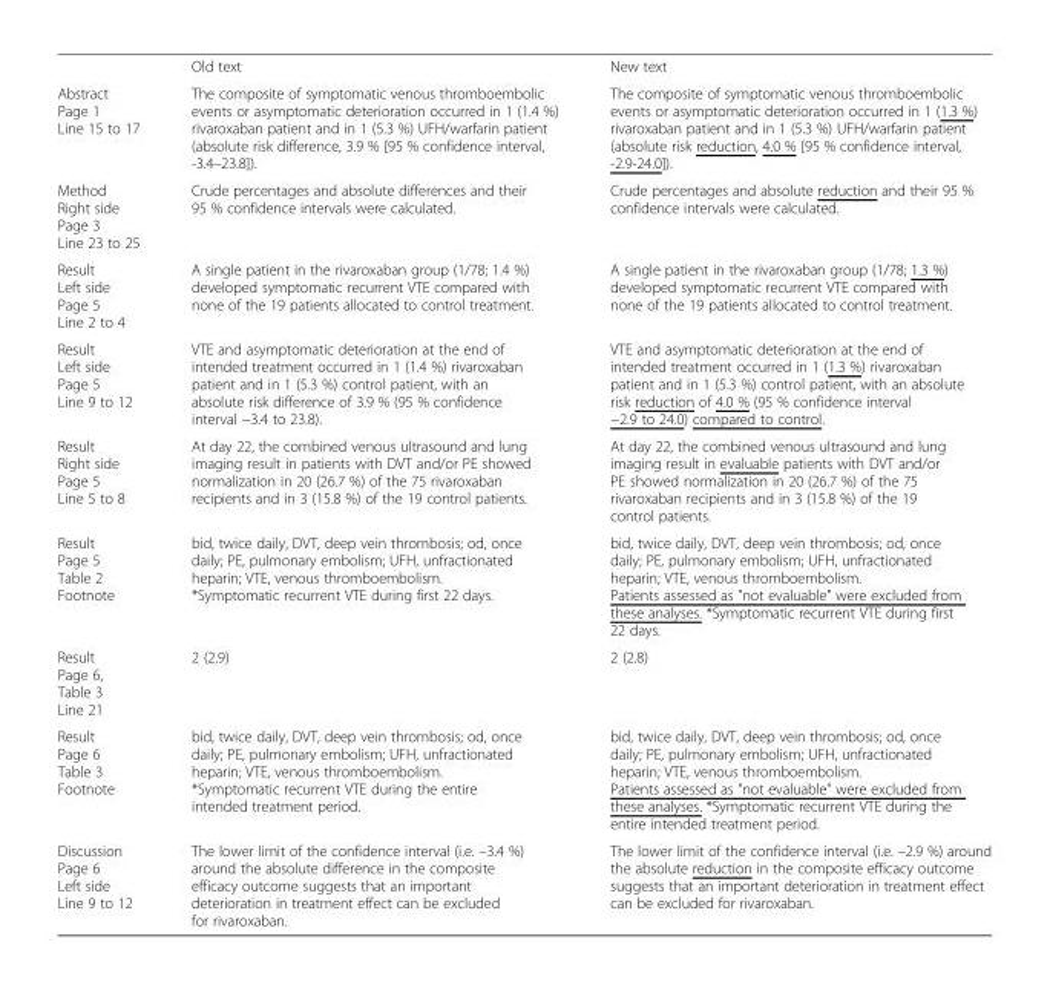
<table><thead><tr><td></td><td>Old text</td><td>New text</td></tr></thead><tbody><tr><td>Abstract Page 1 Line 15 to 17</td><td>The composite of symptomatic venous thromboembolic events or asymptomatic deterioration occurred in 1 (1.4 %) rivaroxaban patient and in 1 (5.3 %) UFH/warfarin patient (absolute risk difference, 3.9 % [95 % confidence interval, -3.4–23.8]).</td><td>The composite of symptomatic venous thromboembolic events or asymptomatic deterioration occurred in 1 (1.3 %) rivaroxaban patient and in 1 (5.3 %) UFH/warfarin patient (absolute risk reduction, 4.0 % [95 % confidence interval, -2.9-24.0]).</td></tr><tr><td>Method Right side Page 3 Line 23 to 25</td><td>Crude percentages and absolute differences and their 95 % confidence intervals were calculated.</td><td>Crude percentages and absolute reduction and their 95 % confidence intervals were calculated.</td></tr><tr><td>Result Left side Page 5 Line 2 to 4</td><td>A single patient in the rivaroxaban group (1/78; 1.4 %) developed symptomatic recurrent VTE compared with none of the 19 patients allocated to control treatment.</td><td>A single patient in the rivaroxaban group (1/78; 1.3 %) developed symptomatic recurrent VTE compared with none of the 19 patients allocated to control treatment.</td></tr><tr><td>Result Left side Page 5 Line 9 to 12</td><td>VTE and asymptomatic deterioration at the end of intended treatment occurred in 1 (1.4 %) rivaroxaban patient and in 1 (5.3 %) control patient, with an absolute risk difference of 3.9 % (95 % confidence interval −3.4 to 23.8).</td><td>VTE and asymptomatic deterioration at the end of intended treatment occurred in 1 (1.3 %) rivaroxaban patient and in 1 (5.3 %) control patient, with an absolute risk reduction of 4.0 % (95 % confidence interval −2.9 to 24.0) compared to control.</td></tr><tr><td>Result Right side Page 5 Line 5 to 8</td><td>At day 22, the combined venous ultrasound and lung imaging result in patients with DVT and/or PE showed normalization in 20 (26.7 %) of the 75 rivaroxaban recipients and in 3 (15.8 %) of the 19 control patients.</td><td>At day 22, the combined venous ultrasound and lung imaging result in evaluable patients with DVT and/or PE showed normalization in 20 (26.7 %) of the 75 rivaroxaban recipients and in 3 (15.8 %) of the 19 control patients.</td></tr><tr><td>Result Page 5 Table 2 Footnote</td><td>bid, twice daily, DVT, deep vein thrombosis; od, once daily; PE, pulmonary embolism; UFH, unfractionated heparin; VTE, venous thromboembolism. *Symptomatic recurrent VTE during first 22 days.</td><td>bid, twice daily, DVT, deep vein thrombosis; od, once daily; PE, pulmonary embolism; UFH, unfractionated heparin; VTE, venous thromboembolism. Patients assessed as &quot;not evaluable&quot; were excluded from these analyses. *Symptomatic recurrent VTE during first 22 days.</td></tr><tr><td>Result Page 6, Table 3 Line 21</td><td>2 (2.9)</td><td>2 (2.8)</td></tr><tr><td>Result Page 6 Table 3 Footnote</td><td>bid, twice daily, DVT, deep vein thrombosis; od, once daily; PE, pulmonary embolism; UFH, unfractionated heparin; VTE, venous thromboembolism. *Symptomatic recurrent VTE during the entire intended treatment period.</td><td>bid, twice daily, DVT, deep vein thrombosis; od, once daily; PE, pulmonary embolism; UFH, unfractionated heparin; VTE, venous thromboembolism. Patients assessed as &quot;not evaluable&quot; were excluded from these analyses. *Symptomatic recurrent VTE during the entire intended treatment period.</td></tr><tr><td>Discussion Page 6 Left side Line 9 to 12</td><td>The lower limit of the confidence interval (i.e. –3.4 %) around the absolute difference in the composite efficacy outcome suggests that an important deterioration in treatment effect can be excluded for rivaroxaban.</td><td>The lower limit of the confidence interval (i.e. –2.9 %) around the absolute reduction in the composite efficacy outcome suggests that an important deterioration in treatment effect can be excluded for rivaroxaban.</td></tr></tbody></table>